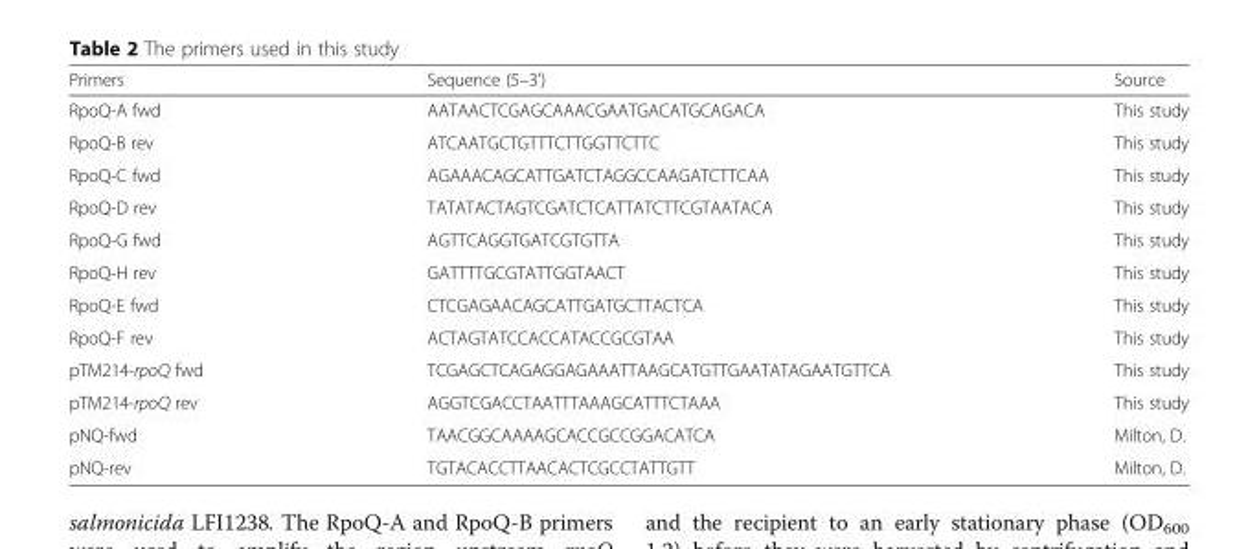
<table><thead><tr><td>Primers</td><td>Sequence (5–3’)</td><td>Source</td></tr></thead><tbody><tr><td>RpoQ-A fwd</td><td>AATAACTCGAGCAAACGAATGACATGCAGACA</td><td>This study</td></tr><tr><td>RpoQ-B rev</td><td>ATCAATGCTGTTTCTTGGTTCTTC</td><td>This study</td></tr><tr><td>RpoQ-C fwd</td><td>AGAAACAGCATTGATCTAGGCCAAGATCTTCAA</td><td>This study</td></tr><tr><td>RpoQ-D rev</td><td>TATATACTAGTCGATCTCATTATCTTCGTAATACA</td><td>This study</td></tr><tr><td>RpoQ-G fwd</td><td>AGTTCAGGTGATCGTGTTA</td><td>This study</td></tr><tr><td>RpoQ-H rev</td><td>GATTTTGCGTATTGGTAACT</td><td>This study</td></tr><tr><td>RpoQ-E fwd</td><td>CTCGAGAACAGCATTGATGCTTACTCA</td><td>This study</td></tr><tr><td>RpoQ-F rev</td><td>ACTAGTATCCACCATACCGCGTAA</td><td>This study</td></tr><tr><td>pTM214-rpoQ fwd</td><td>TCGAGCTCAGAGGAGAAATTAAGCATGTTGAATATAGAATGTTCA</td><td>This study</td></tr><tr><td>pTM214-rpoQ rev</td><td>AGGTCGACCTAATTTAAAGCATTTCTAAA</td><td>This study</td></tr><tr><td>pNQ-fwd</td><td>TAACGGCAAAAGCACCGCCGGACATCA</td><td>Milton, D.</td></tr><tr><td>pNQ-rev</td><td>TGTACACCTTAACACTCGCCTATTGTT</td><td>Milton, D.</td></tr></tbody></table>